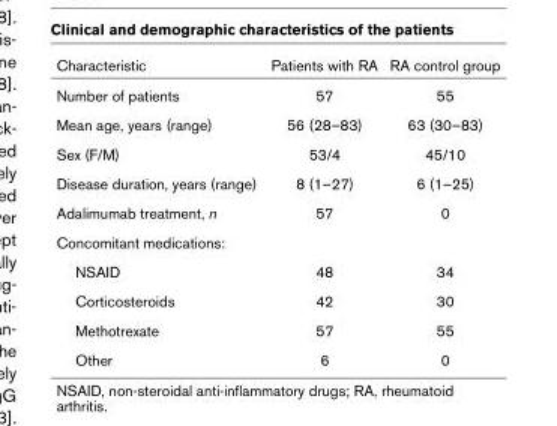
<table><thead><tr><td>Characteristic</td><td>Patients with RA</td><td>RA control group</td></tr></thead><tbody><tr><td>Number of patients</td><td>57</td><td>55</td></tr><tr><td>Mean age, years (range)</td><td>56 (28–83)</td><td>63 (30–83)</td></tr><tr><td>Sex (F/M)</td><td>53/4</td><td>45/10</td></tr><tr><td>Disease duration, years (range)</td><td>8 (1–27)</td><td>6 (1–25)</td></tr><tr><td>Adalimumab treatment, n</td><td>57</td><td>0</td></tr><tr><td colspan="3">Concomitant medications:</td></tr><tr><td>NSAID</td><td>48</td><td>34</td></tr><tr><td>Corticosteroids</td><td>42</td><td>30</td></tr><tr><td>Methotrexate</td><td>57</td><td>55</td></tr><tr><td>Other</td><td>6</td><td>0</td></tr></tbody></table>